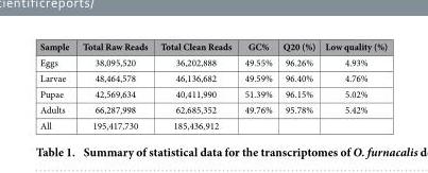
<table><thead><tr><td>Sample</td><td>Total Raw Reads</td><td>Total Clean Reads</td><td>GC%</td><td>Q20 (%)</td><td>Low quality (%)</td></tr></thead><tbody><tr><td>Eggs</td><td>38,095,520</td><td>36,202,888</td><td>49.55%</td><td>96.26%</td><td>4.93%</td></tr><tr><td>Larvae</td><td>48,464,578</td><td>46,136,682</td><td>49.59%</td><td>96.40%</td><td>4.76%</td></tr><tr><td>Pupae</td><td>42,569,634</td><td>40,411,990</td><td>51.39%</td><td>96.15%</td><td>5.02%</td></tr><tr><td>Adults</td><td>66,287,998</td><td>62,685,352</td><td>49.76%</td><td>95.78%</td><td>5.42%</td></tr><tr><td>All</td><td>195,417,730</td><td>185,436,912</td><td></td><td></td><td></td></tr></tbody></table>